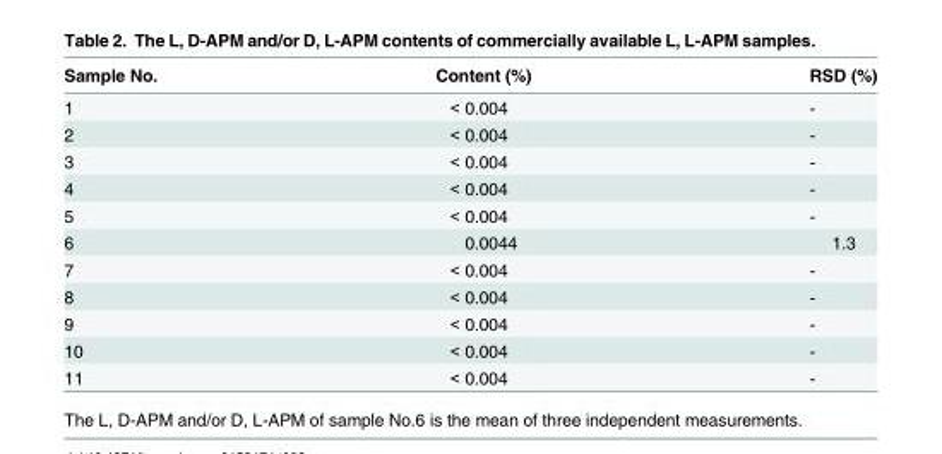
<table><thead><tr><td>Sample No.</td><td>Content (%)</td><td>RSD (%)</td></tr></thead><tbody><tr><td>1</td><td>&lt; 0.004</td><td>-</td></tr><tr><td>2</td><td>&lt; 0.004</td><td>-</td></tr><tr><td>3</td><td>&lt; 0.004</td><td>-</td></tr><tr><td>4</td><td>&lt; 0.004</td><td>-</td></tr><tr><td>5</td><td>&lt; 0.004</td><td>-</td></tr><tr><td>6</td><td>0.0044</td><td>1.3</td></tr><tr><td>7</td><td>&lt; 0.004</td><td>-</td></tr><tr><td>8</td><td>&lt; 0.004</td><td>-</td></tr><tr><td>9</td><td>&lt; 0.004</td><td>-</td></tr><tr><td>10</td><td>&lt; 0.004</td><td>-</td></tr><tr><td>11</td><td>&lt; 0.004</td><td>-</td></tr></tbody></table>